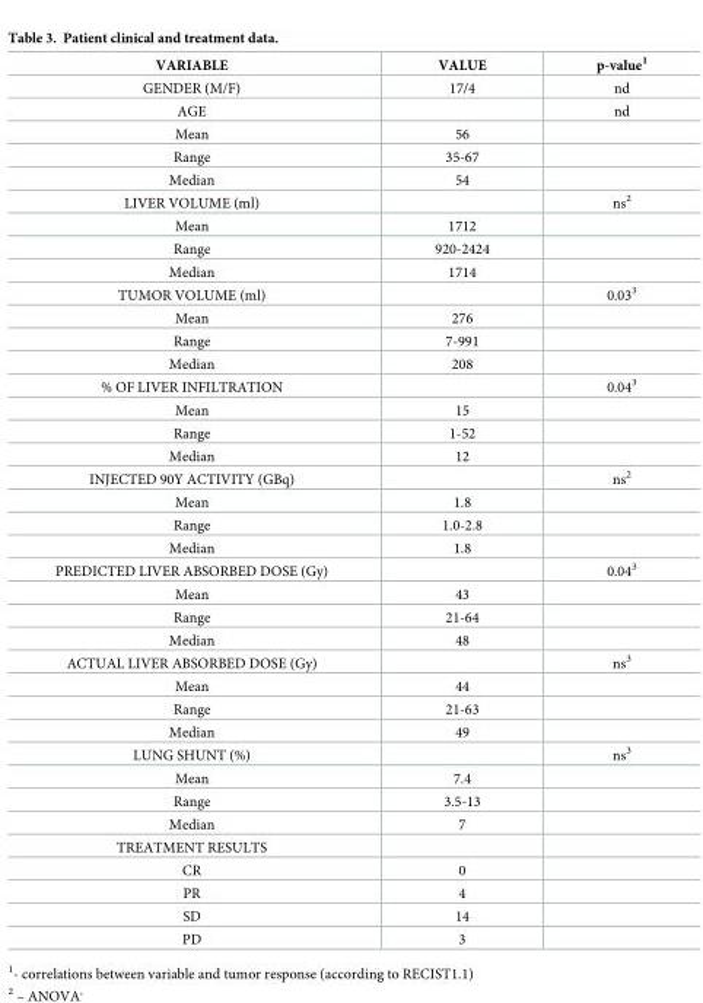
<table><thead><tr><td>VARIABLE</td><td>VALUE</td><td>p-value<sup>1</sup></td></tr></thead><tbody><tr><td>GENDER (M/F)</td><td>17/4</td><td>nd</td></tr><tr><td>AGE</td><td></td><td>nd</td></tr><tr><td>Mean</td><td>56</td><td></td></tr><tr><td>Range</td><td>35-67</td><td></td></tr><tr><td>Median</td><td>54</td><td></td></tr><tr><td>LIVER VOLUME (ml)</td><td></td><td>ns<sup>2</sup></td></tr><tr><td>Mean</td><td>1712</td><td></td></tr><tr><td>Range</td><td>920-2424</td><td></td></tr><tr><td>Median</td><td>1714</td><td></td></tr><tr><td>TUMOR VOLUME (ml)</td><td></td><td>0.03<sup>3</sup></td></tr><tr><td>Mean</td><td>276</td><td></td></tr><tr><td>Range</td><td>7-991</td><td></td></tr><tr><td>Median</td><td>208</td><td></td></tr><tr><td>% OF LIVER INFILTRATION</td><td></td><td>0.04<sup>3</sup></td></tr><tr><td>Mean</td><td>15</td><td></td></tr><tr><td>Range</td><td>1-52</td><td></td></tr><tr><td>Median</td><td>12</td><td></td></tr><tr><td>INJECTED 90Y ACTIVITY (GBq)</td><td></td><td>ns<sup>2</sup></td></tr><tr><td>Mean</td><td>1.8</td><td></td></tr><tr><td>Range</td><td>1.0-2.8</td><td></td></tr><tr><td>Median</td><td>1.8</td><td></td></tr><tr><td>PREDICTED LIVER ABSORBED DOSE (Gy)</td><td></td><td>0.04<sup>3</sup></td></tr><tr><td>Mean</td><td>43</td><td></td></tr><tr><td>Range</td><td>21-64</td><td></td></tr><tr><td>Median</td><td>48</td><td></td></tr><tr><td>ACTUAL LIVER ABSORBED DOSE (Gy)</td><td></td><td>ns<sup>3</sup></td></tr><tr><td>Mean</td><td>44</td><td></td></tr><tr><td>Range</td><td>21-63</td><td></td></tr><tr><td>Median</td><td>49</td><td></td></tr><tr><td>LUNG SHUNT (%)</td><td></td><td>ns<sup>3</sup></td></tr><tr><td>Mean</td><td>7.4</td><td></td></tr><tr><td>Range</td><td>3.5-13</td><td></td></tr><tr><td>Median</td><td>7</td><td></td></tr><tr><td colspan="3">TREATMENT RESULTS</td></tr><tr><td>CR</td><td>0</td><td></td></tr><tr><td>PR</td><td>4</td><td></td></tr><tr><td>SD</td><td>14</td><td></td></tr><tr><td>PD</td><td>3</td><td></td></tr></tbody></table>